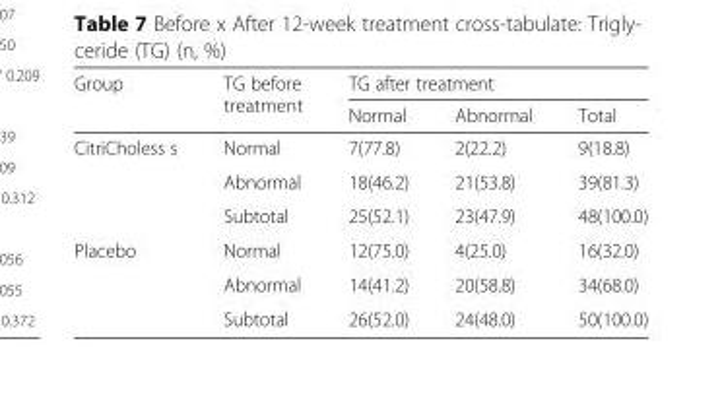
<table><thead><tr><td rowspan="2">Group</td><td rowspan="2">TG before treatment</td><td colspan="3">TG after treatment</td></tr><tr><td>Normal</td><td>Abnormal</td><td>Total</td></tr></thead><tbody><tr><td rowspan="3">CitriCholess s</td><td>Normal</td><td>7(77.8)</td><td>2(22.2)</td><td>9(18.8)</td></tr><tr><td>Abnormal</td><td>18(46.2)</td><td>21(53.8)</td><td>39(81.3)</td></tr><tr><td>Subtotal</td><td>25(52.1)</td><td>23(47.9)</td><td>48(100.0)</td></tr><tr><td rowspan="3">Placebo</td><td>Normal</td><td>12(75.0)</td><td>4(25.0)</td><td>16(32.0)</td></tr><tr><td>Abnormal</td><td>14(41.2)</td><td>20(58.8)</td><td>34(68.0)</td></tr><tr><td>Subtotal</td><td>26(52.0)</td><td>24(48.0)</td><td>50(100.0)</td></tr></tbody></table>